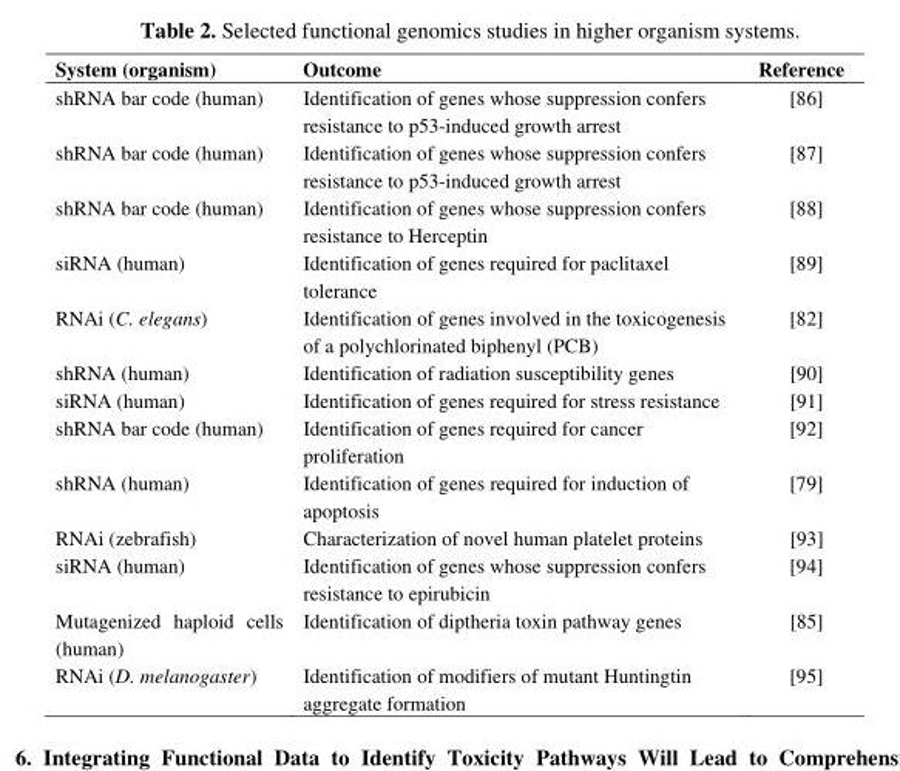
<table><thead><tr><td>System (organism)</td><td>Outcome</td><td>Reference</td></tr></thead><tbody><tr><td>shRNA bar code (human)</td><td>Identification of genes whose suppression confers resistance to p53-induced growth arrest</td><td>[86]</td></tr><tr><td>shRNA bar code (human)</td><td>Identification of genes whose suppression confers resistance to p53-induced growth arrest</td><td>[87]</td></tr><tr><td>shRNA bar code (human)</td><td>Identification of genes whose suppression confers resistance to Herceptin</td><td>[88]</td></tr><tr><td>siRNA (human)</td><td>Identification of genes required for paclitaxel tolerance</td><td>[89]</td></tr><tr><td>RNAi (C. elegans)</td><td>Identification of genes involved in the toxicogenesis of a polychlorinated biphenyl (PCB)</td><td>[82]</td></tr><tr><td>shRNA (human)</td><td>Identification of radiation susceptibility genes</td><td>[90]</td></tr><tr><td>siRNA (human)</td><td>Identification of genes required for stress resistance</td><td>[91]</td></tr><tr><td>shRNA bar code (human)</td><td>Identification of genes required for cancer proliferation</td><td>[92]</td></tr><tr><td>shRNA (human)</td><td>Identification of genes required for induction of apoptosis</td><td>[79]</td></tr><tr><td>RNAi (zebrafish)</td><td>Characterization of novel human platelet proteins</td><td>[93]</td></tr><tr><td>siRNA (human)</td><td>Identification of genes whose suppression confers resistance to epirubicin</td><td>[94]</td></tr><tr><td>Mutagenized haploid cells (human)</td><td>Identification of diptheria toxin pathway genes</td><td>[85]</td></tr><tr><td>RNAi (D. melanogaster)</td><td>Identification of modifiers of mutant Huntingtin aggregate formation</td><td>[95]</td></tr></tbody></table>